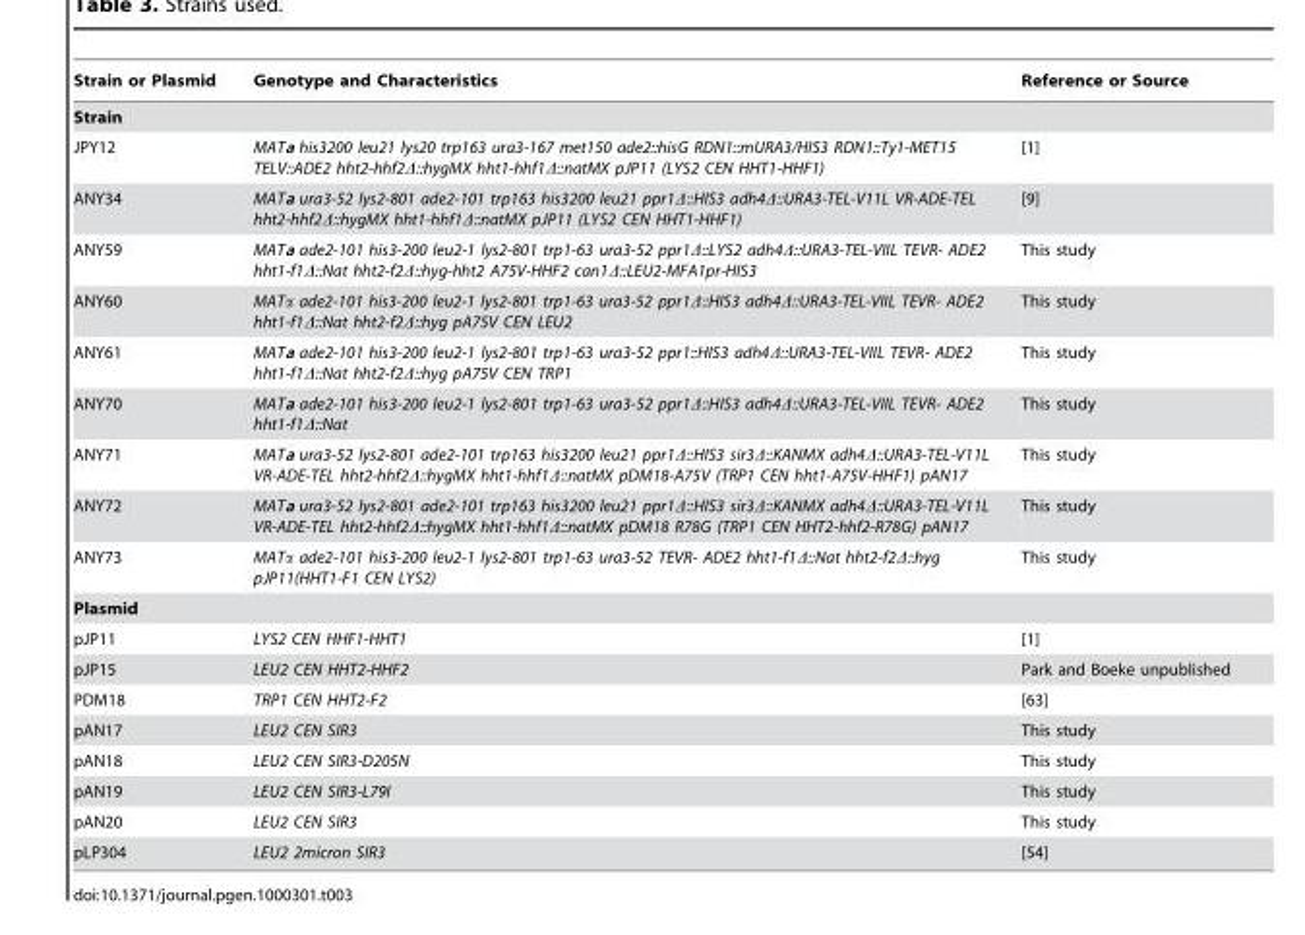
<table><thead><tr><td>Strain or Plasmid</td><td>Genotype and Characteristics</td><td>Reference or Source</td></tr></thead><tbody><tr><td colspan="3">Strain</td></tr><tr><td>JPY12</td><td>MATa his3200 leu21 lys20 trp163 ura3-167 met150 ade2::hisG RDN1::mURA3/HIS3 RDN1::Ty1-MET15 TELV::ADE2 hht2-hhf2Δ::hygMX hht1-hhf1Δ::natMX pJP11 (LYS2 CEN HHT1-HHF1)</td><td>[1]</td></tr><tr><td>ANY34</td><td>MATa ura3-52 lys2-801 ade2-101 trp163 his3200 leu21 ppr1Δ::HIS3 adh4Δ::URA3-TEL-V11L VR-ADE-TEL hht2-hhf2Δ::hygMX hht1-hhf1Δ::natMX pJP11 (LYS2 CEN HHT1-HHF1)</td><td>[9]</td></tr><tr><td>ANY59</td><td>MATa ade2-101 his3-200 leu2-1 lys2-801 trp1-63 ura3-52 ppr1Δ::LYS2 adh4Δ::URA3-TEL-VIIL TEVR- ADE2 hht1-f1Δ::Nat hht2-f2Δ::hyg-hht2 A75V-HHF2 can1Δ::LEU2-MFA1pr-HIS3</td><td>This study</td></tr><tr><td>ANY60</td><td>MATα ade2-101 his3-200 leu2-1 lys2-801 trp1-63 ura3-52 ppr1Δ::HIS3 adh4Δ::URA3-TEL-VIIL TEVR- ADE2 hht1-f1Δ::Nat hht2-f2Δ::hyg pA75V CEN LEU2</td><td>This study</td></tr><tr><td>ANY61</td><td>MATa ade2-101 his3-200 leu2-1 lys2-801 trp1-63 ura3-52 ppr1::HIS3 adh4Δ::URA3-TEL-VIIL TEVR- ADE2 hht1-f1Δ::Nat hht2-f2Δ::hyg pA75V CEN TRP1</td><td>This study</td></tr><tr><td>ANY70</td><td>MATa ade2-101 his3-200 leu2-1 lys2-801 trp1-63 ura3-52 ppr1Δ::HIS3 adh4Δ::URA3-TEL-VIIL TEVR- ADE2 hht1-f1Δ::Nat</td><td>This study</td></tr><tr><td>ANY71</td><td>MATa ura3-52 lys2-801 ade2-101 trp163 his3200 leu21 ppr1Δ::HIS3 sir3Δ::KANMX adh4Δ::URA3-TEL-V11L VR-ADE-TEL hht2-hhf2Δ::hygMX hht1-hhf1Δ::natMX pDM18-A75V (TRP1 CEN hht1-A75V-HHF1) pAN17</td><td>This study</td></tr><tr><td>ANY72</td><td>MATa ura3-52 lys2-801 ade2-101 trp163 his3200 leu21 ppr1Δ::HIS3 sir3Δ::KANMX adh4Δ::URA3-TEL-V11L VR-ADE-TEL hht2-hhf2Δ::hygMX hht1-hhf1Δ::natMX pDM18 R78G (TRP1 CEN HHT2-hhf2-R78G) pAN17</td><td>This study</td></tr><tr><td>ANY73</td><td>MATα ade2-101 his3-200 leu2-1 lys2-801 trp1-63 ura3-52 TEVR- ADE2 hht1-f1Δ::Nat hht2-f2Δ::hyg pJP11(HHT1-F1 CEN LYS2)</td><td>This study</td></tr><tr><td colspan="3">Plasmid</td></tr><tr><td>pJP11</td><td>LYS2 CEN HHF1-HHT1</td><td>[1]</td></tr><tr><td>pJP15</td><td>LEU2 CEN HHT2-HHF2</td><td>Park and Boeke unpublished</td></tr><tr><td>PDM18</td><td>TRP1 CEN HHT2-F2</td><td>[63]</td></tr><tr><td>pAN17</td><td>LEU2 CEN SIR3</td><td>This study</td></tr><tr><td>pAN18</td><td>LEU2 CEN SIR3-D205N</td><td>This study</td></tr><tr><td>pAN19</td><td>LEU2 CEN SIR3-L79I</td><td>This study</td></tr><tr><td>pAN20</td><td>LEU2 CEN SIR3</td><td>This study</td></tr><tr><td>pLP304</td><td>LEU2 2micron SIR3</td><td>[54]</td></tr></tbody></table>